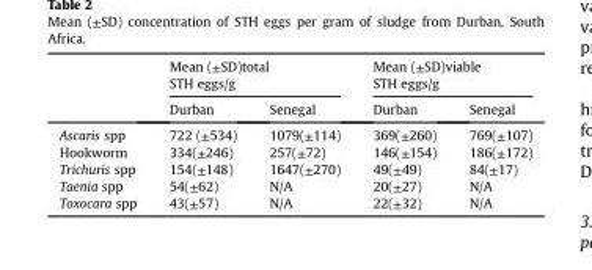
<table><thead><tr><td rowspan="2"></td><td colspan="2">Mean (±SD)total STH eggs/g</td><td colspan="2">Mean (±SD)viable STH eggs/g</td></tr><tr><td>Durban</td><td>Senegal</td><td>Durban</td><td>Senegal</td></tr></thead><tbody><tr><td>Ascaris spp</td><td>722 (±534)</td><td>1079(±114)</td><td>369(±260)</td><td>769(±107)</td></tr><tr><td>Hookworm</td><td>334(±246)</td><td>257(±72)</td><td>146(±154)</td><td>186(±172)</td></tr><tr><td>Trichuris spp</td><td>154(±148)</td><td>1647(±270)</td><td>49(±49)</td><td>84(±17)</td></tr><tr><td>Taenia spp</td><td>54(±62)</td><td>N/A</td><td>20(±27)</td><td>N/A</td></tr><tr><td>Toxocara spp</td><td>43(±57)</td><td>N/A</td><td>22(±32)</td><td>N/A</td></tr></tbody></table>